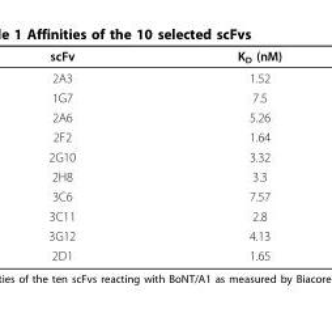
<table><thead><tr><td>scFv</td><td>K<sub>D</sub> (nM)</td></tr></thead><tbody><tr><td>2A3</td><td>1.52</td></tr><tr><td>1G7</td><td>7.5</td></tr><tr><td>2A6</td><td>5.26</td></tr><tr><td>2F2</td><td>1.64</td></tr><tr><td>2G10</td><td>3.32</td></tr><tr><td>2H8</td><td>3.3</td></tr><tr><td>3C6</td><td>7.57</td></tr><tr><td>3C11</td><td>2.8</td></tr><tr><td>3G12</td><td>4.13</td></tr><tr><td>2D1</td><td>1.65</td></tr></tbody></table>